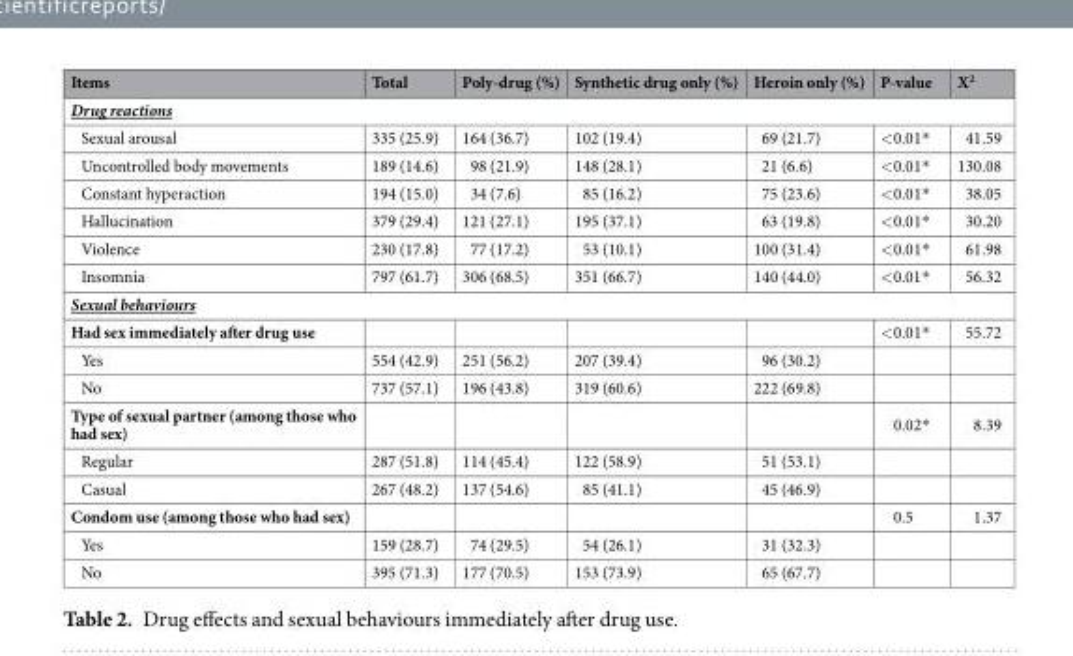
<table><thead><tr><td>Items</td><td>Total</td><td>Poly-drug (%)</td><td>Synthetic drug only (%)</td><td>Heroin only (%)</td><td>P-value</td><td>X<sup>2</sup></td></tr></thead><tbody><tr><td colspan="7">Drug reactions</td></tr><tr><td>Sexual arousal</td><td>335 (25.9)</td><td>164 (36.7)</td><td>102 (19.4)</td><td>69 (21.7)</td><td>&lt;0.01*</td><td>41.59</td></tr><tr><td>Uncontrolled body movements</td><td>189 (14.6)</td><td>98 (21.9)</td><td>148 (28.1)</td><td>21 (6.6)</td><td>&lt;0.01*</td><td>130.08</td></tr><tr><td>Constant hyperaction</td><td>194 (15.0)</td><td>34 (7.6)</td><td>85 (16.2)</td><td>75 (23.6)</td><td>&lt;0.01*</td><td>38.05</td></tr><tr><td>Hallucination</td><td>379 (29.4)</td><td>121 (27.1)</td><td>195 (37.1)</td><td>63 (19.8)</td><td>&lt;0.01*</td><td>30.20</td></tr><tr><td>Violence</td><td>230 (17.8)</td><td>77 (17.2)</td><td>53 (10.1)</td><td>100 (31.4)</td><td>&lt;0.01*</td><td>61.98</td></tr><tr><td>Insomnia</td><td>797 (61.7)</td><td>306 (68.5)</td><td>351 (66.7)</td><td>140 (44.0)</td><td>&lt;0.01*</td><td>56.32</td></tr><tr><td colspan="7">Sexual behaviours</td></tr><tr><td>Had sex immediately after drug use</td><td></td><td></td><td></td><td></td><td>&lt;0.01*</td><td>55.72</td></tr><tr><td>Yes</td><td>554 (42.9)</td><td>251 (56.2)</td><td>207 (39.4)</td><td>96 (30.2)</td><td></td><td></td></tr><tr><td>No</td><td>737 (57.1)</td><td>196 (43.8)</td><td>319 (60.6)</td><td>222 (69.8)</td><td></td><td></td></tr><tr><td>Type of sexual partner (among those who had sex)</td><td></td><td></td><td></td><td></td><td>0.02*</td><td>8.39</td></tr><tr><td>Regular</td><td>287 (51.8)</td><td>114 (45.4)</td><td>122 (58.9)</td><td>51 (53.1)</td><td></td><td></td></tr><tr><td>Casual</td><td>267 (48.2)</td><td>137 (54.6)</td><td>85 (41.1)</td><td>45 (46.9)</td><td></td><td></td></tr><tr><td>Condom use (among those who had sex)</td><td></td><td></td><td></td><td></td><td>0.5</td><td>1.37</td></tr><tr><td>Yes</td><td>159 (28.7)</td><td>74 (29.5)</td><td>54 (26.1)</td><td>31 (32.3)</td><td></td><td></td></tr><tr><td>No</td><td>395 (71.3)</td><td>177 (70.5)</td><td>153 (73.9)</td><td>65 (67.7)</td><td></td><td></td></tr></tbody></table>